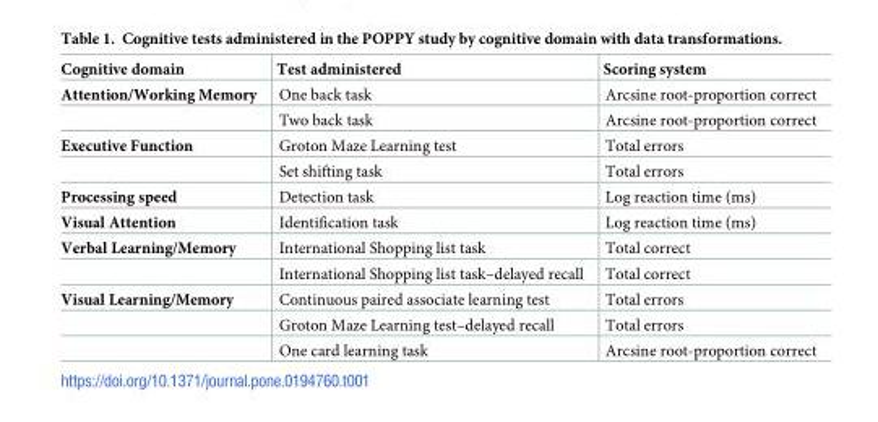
<table><thead><tr><td>Cognitive domain</td><td>Test administered</td><td>Scoring system</td></tr></thead><tbody><tr><td rowspan="2">Attention/Working Memory</td><td>One back task</td><td>Arcsine root-proportion correct</td></tr><tr><td>Two back task</td><td>Arcsine root-proportion correct</td></tr><tr><td rowspan="2">Executive Function</td><td>Groton Maze Learning test</td><td>Total errors</td></tr><tr><td>Set shifting task</td><td>Total errors</td></tr><tr><td>Processing speed</td><td>Detection task</td><td>Log reaction time (ms)</td></tr><tr><td>Visual Attention</td><td>Identification task</td><td>Log reaction time (ms)</td></tr><tr><td rowspan="2">Verbal Learning/Memory</td><td>International Shopping list task</td><td>Total correct</td></tr><tr><td>International Shopping list task–delayed recall</td><td>Total correct</td></tr><tr><td rowspan="3">Visual Learning/Memory</td><td>Continuous paired associate learning test</td><td>Total errors</td></tr><tr><td>Groton Maze Learning test–delayed recall</td><td>Total errors</td></tr><tr><td>One card learning task</td><td>Arcsine root-proportion correct</td></tr></tbody></table>